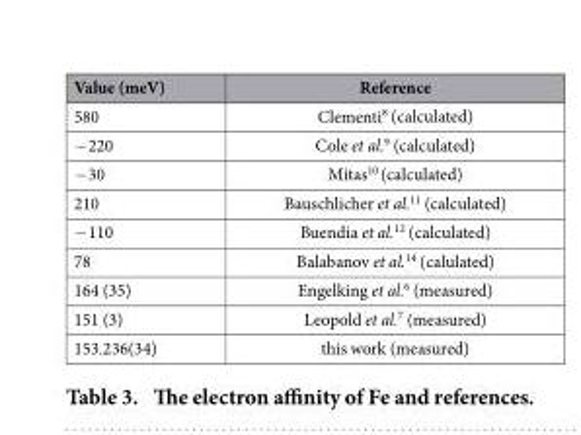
<table><thead><tr><td>Value (meV)</td><td>Reference</td></tr></thead><tbody><tr><td>580</td><td>Clementi<sup>8</sup> (calculated)</td></tr><tr><td>− 220</td><td>Cole et al.<sup>9</sup> (calculated)</td></tr><tr><td>− 30</td><td>Mitas<sup>10</sup> (calculated)</td></tr><tr><td>210</td><td>Bauschlicher et al.<sup>11</sup> (calculated)</td></tr><tr><td>− 110</td><td>Buendia et al.<sup>12</sup> (calculated)</td></tr><tr><td>78</td><td>Balabanov et al.<sup>14</sup> (calulated)</td></tr><tr><td>164 (35)</td><td>Engelking et al.<sup>6</sup> (measured)</td></tr><tr><td>151 (3)</td><td>Leopold et al.<sup>7</sup> (measured)</td></tr><tr><td>153.236(34)</td><td>this work (measured)</td></tr></tbody></table>